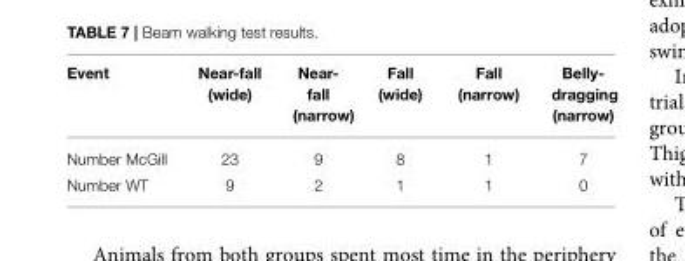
<table><thead><tr><td>Event</td><td>Near-fall (wide)</td><td>Near- fall (narrow)</td><td>Fall (wide)</td><td>Fall (narrow)</td><td>Belly- dragging (narrow)</td></tr></thead><tbody><tr><td>Number McGill</td><td>23</td><td>9</td><td>8</td><td>1</td><td>7</td></tr><tr><td>Number WT</td><td>9</td><td>2</td><td>1</td><td>1</td><td>0</td></tr></tbody></table>